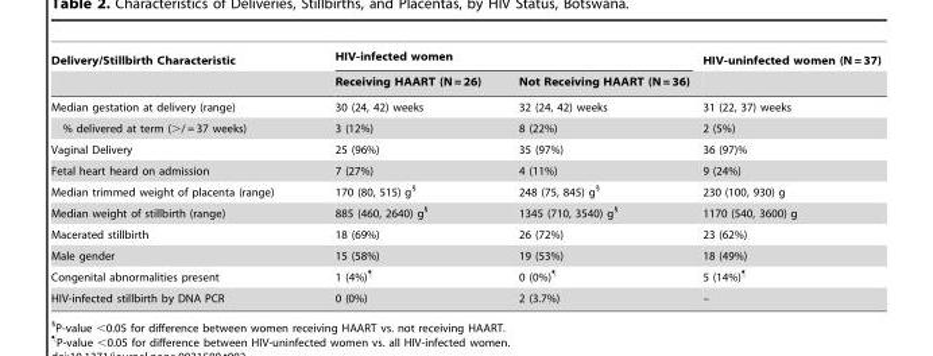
<table><thead><tr><td rowspan="2">Delivery/Stillbirth Characteristic</td><td colspan="2">HIV-infected women</td><td rowspan="2">HIV-uninfected women (N = 37)</td></tr><tr><td>Receiving HAART (N = 26)</td><td>Not Receiving HAART (N = 36)</td></tr></thead><tbody><tr><td>Median gestation at delivery (range)</td><td>30 (24, 42) weeks</td><td>32 (24, 42) weeks</td><td>31 (22, 37) weeks</td></tr><tr><td>% delivered at term (&gt;/ = 37 weeks)</td><td>3 (12%)</td><td>8 (22%)</td><td>2 (5%)</td></tr><tr><td>Vaginal Delivery</td><td>25 (96%)</td><td>35 (97%)</td><td>36 (97)%</td></tr><tr><td>Fetal heart heard on admission</td><td>7 (27%)</td><td>4 (11%)</td><td>9 (24%)</td></tr><tr><td>Median trimmed weight of placenta (range)</td><td>170 (80, 515) g§</td><td>248 (75, 845) g§</td><td>230 (100, 930) g</td></tr><tr><td>Median weight of stillbirth (range)</td><td>885 (460, 2640) g§</td><td>1345 (710, 3540) g§</td><td>1170 (540, 3600) g</td></tr><tr><td>Macerated stillbirth</td><td>18 (69%)</td><td>26 (72%)</td><td>23 (62%)</td></tr><tr><td>Male gender</td><td>15 (58%)</td><td>19 (53%)</td><td>18 (49%)</td></tr><tr><td>Congenital abnormalities present</td><td>1 (4%)¶</td><td>0 (0%)¶</td><td>5 (14%)¶</td></tr><tr><td>HIV-infected stillbirth by DNA PCR</td><td>0 (0%)</td><td>2 (3.7%)</td><td>–</td></tr></tbody></table>